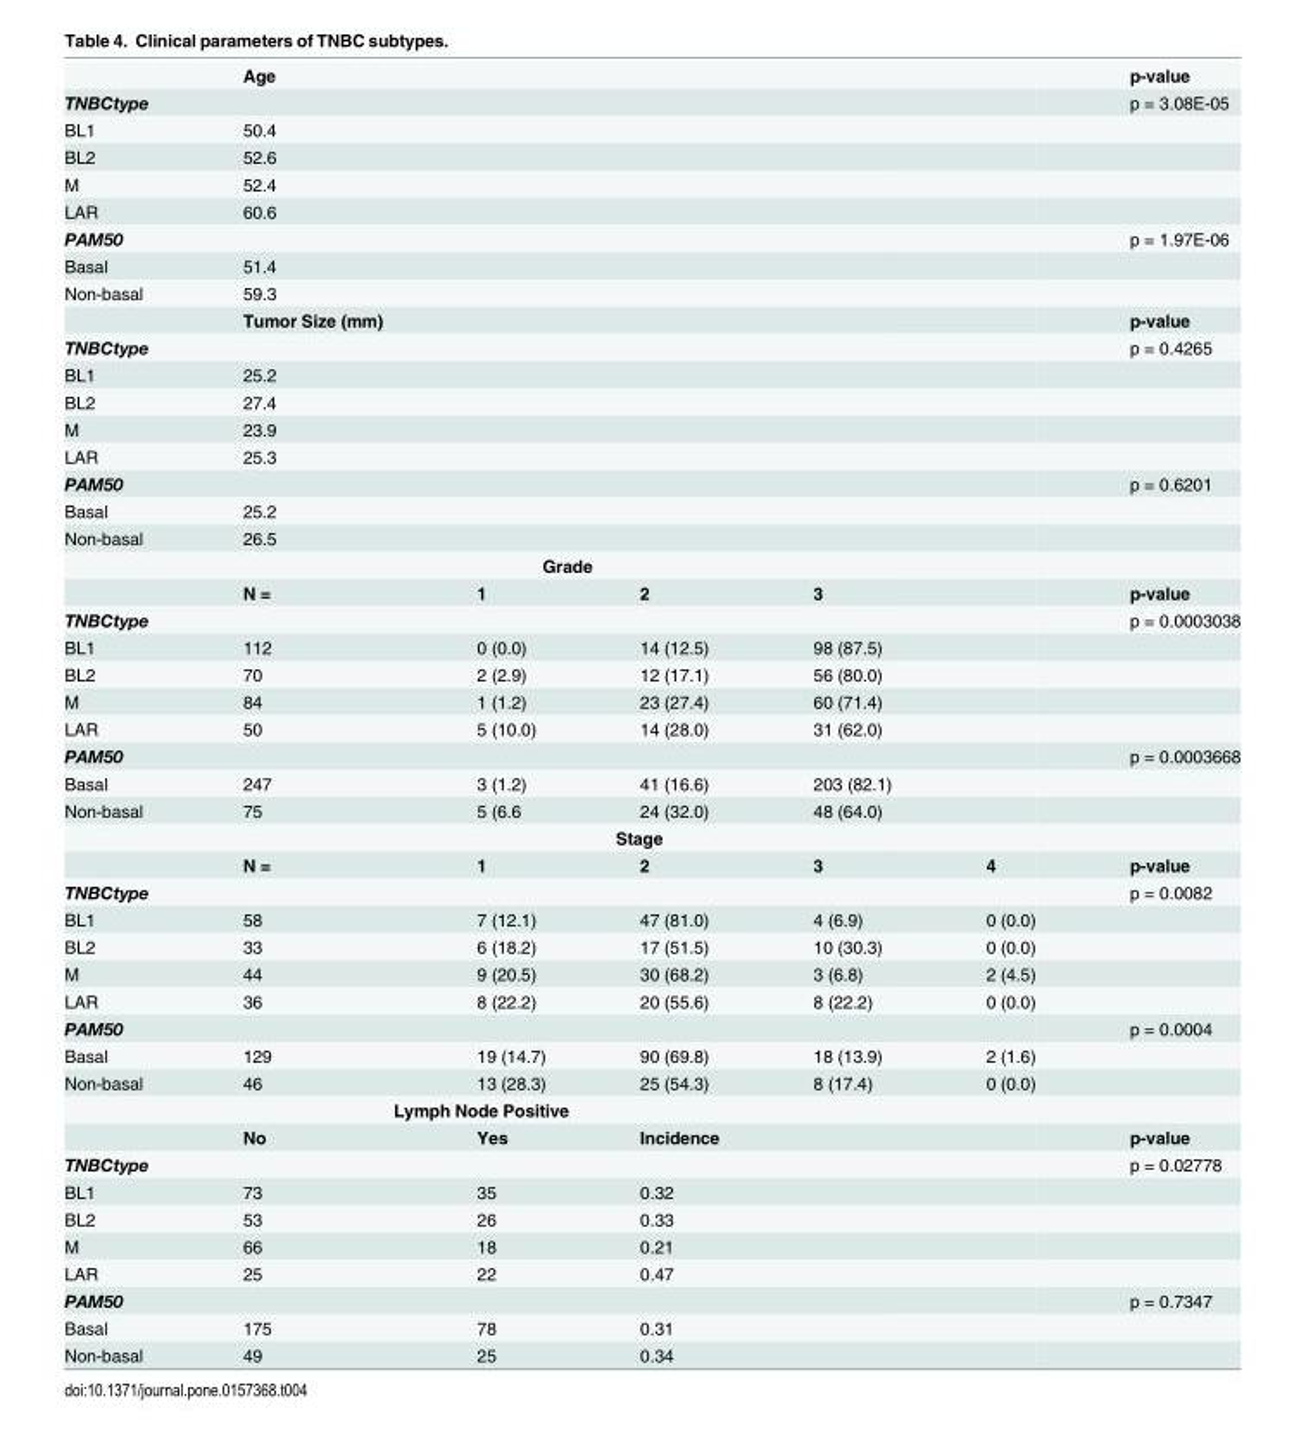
<table><thead><tr><td></td><td>Age</td><td></td><td></td><td></td><td></td><td>p-value</td></tr></thead><tbody><tr><td>TNBCtype</td><td></td><td></td><td></td><td></td><td></td><td>p = 3.08E-05</td></tr><tr><td>BL1</td><td>50.4</td><td></td><td></td><td></td><td></td><td></td></tr><tr><td>BL2</td><td>52.6</td><td></td><td></td><td></td><td></td><td></td></tr><tr><td>M</td><td>52.4</td><td></td><td></td><td></td><td></td><td></td></tr><tr><td>LAR</td><td>60.6</td><td></td><td></td><td></td><td></td><td></td></tr><tr><td>PAM50</td><td></td><td></td><td></td><td></td><td></td><td>p = 1.97E-06</td></tr><tr><td>Basal</td><td>51.4</td><td></td><td></td><td></td><td></td><td></td></tr><tr><td rowspan="2">Non-basal</td><td>59.3</td><td></td><td></td><td></td><td></td><td></td></tr><tr><td>Tumor Size (mm)</td><td></td><td></td><td></td><td></td><td>p-value</td></tr><tr><td>TNBCtype</td><td></td><td></td><td></td><td></td><td></td><td>p = 0.4265</td></tr><tr><td>BL1</td><td>25.2</td><td></td><td></td><td></td><td></td><td></td></tr><tr><td>BL2</td><td>27.4</td><td></td><td></td><td></td><td></td><td></td></tr><tr><td>M</td><td>23.9</td><td></td><td></td><td></td><td></td><td></td></tr><tr><td>LAR</td><td>25.3</td><td></td><td></td><td></td><td></td><td></td></tr><tr><td>PAM50</td><td></td><td></td><td></td><td></td><td></td><td>p = 0.6201</td></tr><tr><td>Basal</td><td>25.2</td><td></td><td></td><td></td><td></td><td></td></tr><tr><td rowspan="3">Non-basal</td><td>26.5</td><td></td><td></td><td></td><td></td><td></td></tr><tr><td colspan="4">Grade</td><td></td><td></td></tr><tr><td>N =</td><td>1</td><td>2</td><td>3</td><td></td><td>p-value</td></tr><tr><td>TNBCtype</td><td></td><td></td><td></td><td></td><td></td><td>p = 0.0003038</td></tr><tr><td>BL1</td><td>112</td><td>0 (0.0)</td><td>14 (12.5)</td><td>98 (87.5)</td><td></td><td></td></tr><tr><td>BL2</td><td>70</td><td>2 (2.9)</td><td>12 (17.1)</td><td>56 (80.0)</td><td></td><td></td></tr><tr><td>M</td><td>84</td><td>1 (1.2)</td><td>23 (27.4)</td><td>60 (71.4)</td><td></td><td></td></tr><tr><td>LAR</td><td>50</td><td>5 (10.0)</td><td>14 (28.0)</td><td>31 (62.0)</td><td></td><td></td></tr><tr><td>PAM50</td><td></td><td></td><td></td><td></td><td></td><td>p = 0.0003668</td></tr><tr><td>Basal</td><td>247</td><td>3 (1.2)</td><td>41 (16.6)</td><td>203 (82.1)</td><td></td><td></td></tr><tr><td rowspan="3">Non-basal</td><td>75</td><td>5 (6.6</td><td>24 (32.0)</td><td>48 (64.0)</td><td></td><td></td></tr><tr><td colspan="5">Stage</td><td></td></tr><tr><td>N =</td><td>1</td><td>2</td><td>3</td><td>4</td><td>p-value</td></tr><tr><td>TNBCtype</td><td></td><td></td><td></td><td></td><td></td><td>p = 0.0082</td></tr><tr><td>BL1</td><td>58</td><td>7 (12.1)</td><td>47 (81.0)</td><td>4 (6.9)</td><td>0 (0.0)</td><td></td></tr><tr><td>BL2</td><td>33</td><td>6 (18.2)</td><td>17 (51.5)</td><td>10 (30.3)</td><td>0 (0.0)</td><td></td></tr><tr><td>M</td><td>44</td><td>9 (20.5)</td><td>30 (68.2)</td><td>3 (6.8)</td><td>2 (4.5)</td><td></td></tr><tr><td>LAR</td><td>36</td><td>8 (22.2)</td><td>20 (55.6)</td><td>8 (22.2)</td><td>0 (0.0)</td><td></td></tr><tr><td>PAM50</td><td></td><td></td><td></td><td></td><td></td><td>p = 0.0004</td></tr><tr><td>Basal</td><td>129</td><td>19 (14.7)</td><td>90 (69.8)</td><td>18 (13.9)</td><td>2 (1.6)</td><td></td></tr><tr><td rowspan="3">Non-basal</td><td>46</td><td>13 (28.3)</td><td>25 (54.3)</td><td>8 (17.4)</td><td>0 (0.0)</td><td></td></tr><tr><td colspan="3">Lymph Node Positive</td><td></td><td></td><td></td></tr><tr><td>No</td><td>Yes</td><td>Incidence</td><td></td><td></td><td>p-value</td></tr><tr><td>TNBCtype</td><td></td><td></td><td></td><td></td><td></td><td>p = 0.02778</td></tr><tr><td>BL1</td><td>73</td><td>35</td><td>0.32</td><td></td><td></td><td></td></tr><tr><td>BL2</td><td>53</td><td>26</td><td>0.33</td><td></td><td></td><td></td></tr><tr><td>M</td><td>66</td><td>18</td><td>0.21</td><td></td><td></td><td></td></tr><tr><td>LAR</td><td>25</td><td>22</td><td>0.47</td><td></td><td></td><td></td></tr><tr><td>PAM50</td><td></td><td></td><td></td><td></td><td></td><td>p = 0.7347</td></tr><tr><td>Basal</td><td>175</td><td>78</td><td>0.31</td><td></td><td></td><td></td></tr><tr><td>Non-basal</td><td>49</td><td>25</td><td>0.34</td><td></td><td></td><td></td></tr></tbody></table>